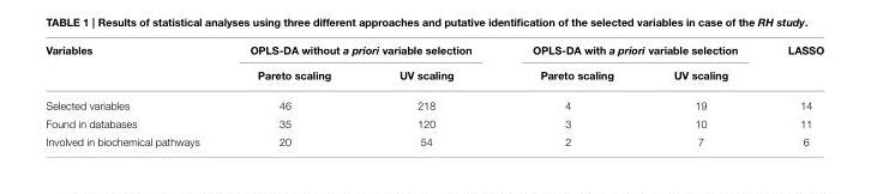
<table><thead><tr><td rowspan="2">Variables</td><td colspan="2">OPLS-DA without a priori variable selection</td><td colspan="2">OPLS-DA with a priori variable selection</td><td rowspan="2">LASSO</td></tr><tr><td>Pareto scaling</td><td>UV scaling</td><td>Pareto scaling</td><td>UV scaling</td></tr></thead><tbody><tr><td>Selected variables</td><td>46</td><td>218</td><td>4</td><td>19</td><td>14</td></tr><tr><td>Found in databases</td><td>35</td><td>120</td><td>3</td><td>10</td><td>11</td></tr><tr><td>Involved in biochemical pathways</td><td>20</td><td>54</td><td>2</td><td>7</td><td>6</td></tr></tbody></table>